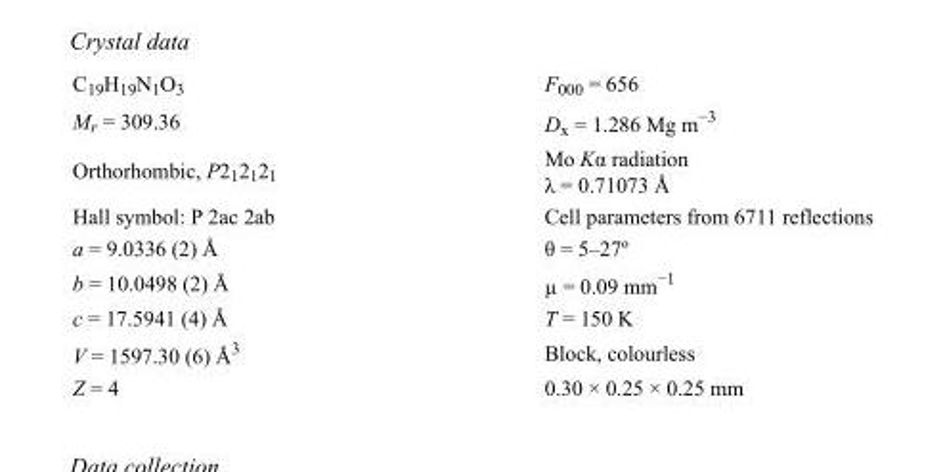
<table><tbody><tr><td>C19H19N1O3</td><td>F000 = 656</td></tr><tr><td>M<sub>r</sub> = 309.36</td><td>D<sub>x</sub> = 1.286 Mg m<sup>−3</sup></td></tr><tr><td>Orthorhombic, P2<sub>1</sub>2<sub>1</sub>2<sub>1</sub></td><td>Mo Kα radiation λ = 0.71073 Å</td></tr><tr><td>Hall symbol: P 2ac 2ab</td><td>Cell parameters from 6711 reflections</td></tr><tr><td>a = 9.0336 (2) Å</td><td>θ = 5–27º</td></tr><tr><td>b = 10.0498 (2) Å</td><td>µ = 0.09 mm<sup>−1</sup></td></tr><tr><td>c = 17.5941 (4) Å</td><td>T = 150 K</td></tr><tr><td>V = 1597.30 (6) Å<sup>3</sup></td><td>Block, colourless</td></tr><tr><td>Z = 4</td><td>0.30 × 0.25 × 0.25 mm</td></tr></tbody></table>